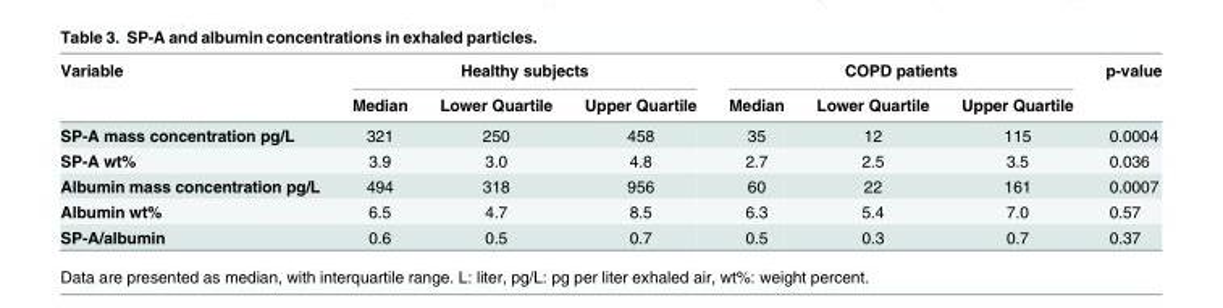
<table><thead><tr><td rowspan="2">Variable</td><td colspan="3">Healthy subjects</td><td colspan="3">COPD patients</td><td rowspan="2">p-value</td></tr><tr><td>Median</td><td>Lower Quartile</td><td>Upper Quartile</td><td>Median</td><td>Lower Quartile</td><td>Upper Quartile</td></tr></thead><tbody><tr><td>SP-A mass concentration pg/L</td><td>321</td><td>250</td><td>458</td><td>35</td><td>12</td><td>115</td><td>0.0004</td></tr><tr><td>SP-A wt%</td><td>3.9</td><td>3.0</td><td>4.8</td><td>2.7</td><td>2.5</td><td>3.5</td><td>0.036</td></tr><tr><td>Albumin mass concentration pg/L</td><td>494</td><td>318</td><td>956</td><td>60</td><td>22</td><td>161</td><td>0.0007</td></tr><tr><td>Albumin wt%</td><td>6.5</td><td>4.7</td><td>8.5</td><td>6.3</td><td>5.4</td><td>7.0</td><td>0.57</td></tr><tr><td>SP-A/albumin</td><td>0.6</td><td>0.5</td><td>0.7</td><td>0.5</td><td>0.3</td><td>0.7</td><td>0.37</td></tr></tbody></table>